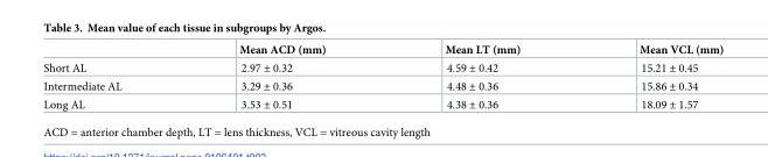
<table><thead><tr><td></td><td>Mean ACD (mm)</td><td>Mean LT (mm)</td><td>Mean VCL (mm)</td></tr></thead><tbody><tr><td>Short AL</td><td>2.97 ± 0.32</td><td>4.59 ± 0.42</td><td>15.21 ± 0.45</td></tr><tr><td>Intermediate AL</td><td>3.29 ± 0.36</td><td>4.48 ± 0.36</td><td>15.86 ± 0.34</td></tr><tr><td>Long AL</td><td>3.53 ± 0.51</td><td>4.38 ± 0.36</td><td>18.09 ± 1.57</td></tr></tbody></table>